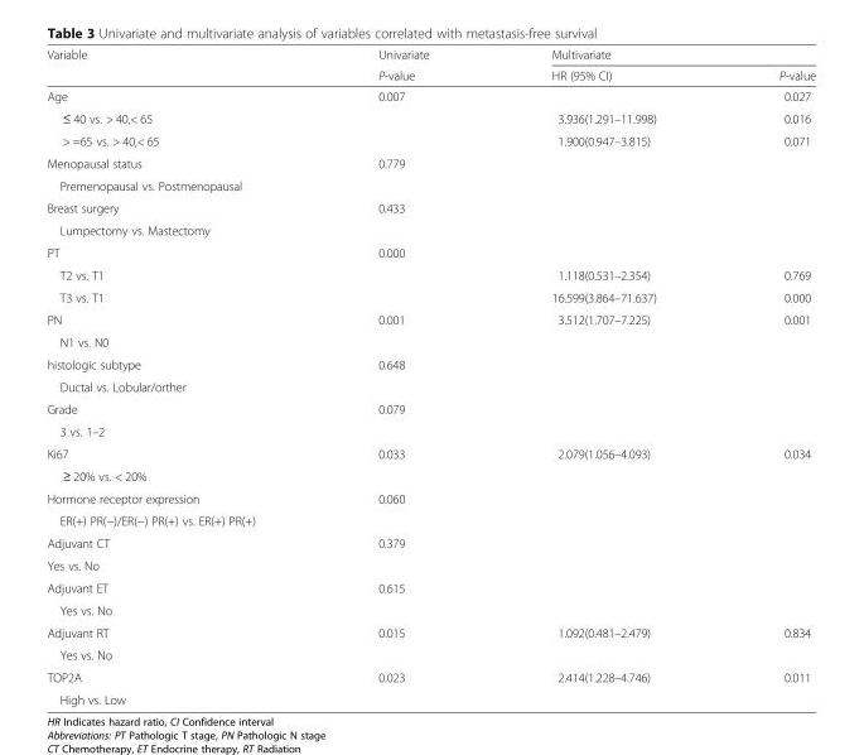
<table><thead><tr><td rowspan="2">Variable</td><td rowspan="2">Univariate P-value</td><td colspan="2">Multivariate</td></tr><tr><td>HR (95% CI)</td><td>P-value</td></tr></thead><tbody><tr><td>Age</td><td>0.007</td><td></td><td>0.027</td></tr><tr><td>≤ 40 vs. &gt; 40,&lt; 65</td><td></td><td>3.936(1.291–11.998)</td><td>0.016</td></tr><tr><td>&gt; =65 vs. &gt; 40,&lt; 65</td><td></td><td>1.900(0.947–3.815)</td><td>0.071</td></tr><tr><td>Menopausal status</td><td>0.779</td><td></td><td></td></tr><tr><td colspan="4">Premenopausal vs. Postmenopausal</td></tr><tr><td>Breast surgery</td><td>0.433</td><td></td><td></td></tr><tr><td colspan="4">Lumpectomy vs. Mastectomy</td></tr><tr><td>PT</td><td>0.000</td><td></td><td></td></tr><tr><td>T2 vs. T1</td><td></td><td>1.118(0.531–2.354)</td><td>0.769</td></tr><tr><td>T3 vs. T1</td><td></td><td>16.599(3.864–71.637)</td><td>0.000</td></tr><tr><td>PN</td><td>0.001</td><td>3.512(1.707–7.225)</td><td>0.001</td></tr><tr><td colspan="4">N1 vs. N0</td></tr><tr><td>histologic subtype</td><td>0.648</td><td></td><td></td></tr><tr><td colspan="4">Ductal vs. Lobular/orther</td></tr><tr><td>Grade</td><td>0.079</td><td></td><td></td></tr><tr><td colspan="4">3 vs. 1–2</td></tr><tr><td>Ki67</td><td>0.033</td><td>2.079(1.056–4.093)</td><td>0.034</td></tr><tr><td colspan="4">≥ 20% vs. &lt; 20%</td></tr><tr><td>Hormone receptor expression</td><td>0.060</td><td></td><td></td></tr><tr><td colspan="4">ER(+) PR(−)/ER(−) PR(+) vs. ER(+) PR(+)</td></tr><tr><td>Adjuvant CT</td><td>0.379</td><td></td><td></td></tr><tr><td colspan="4">Yes vs. No</td></tr><tr><td>Adjuvant ET</td><td>0.615</td><td></td><td></td></tr><tr><td colspan="4">Yes vs. No</td></tr><tr><td>Adjuvant RT</td><td>0.015</td><td>1.092(0.481–2.479)</td><td>0.834</td></tr><tr><td colspan="4">Yes vs. No</td></tr><tr><td>TOP2A</td><td>0.023</td><td>2.414(1.228–4.746)</td><td>0.011</td></tr><tr><td colspan="4">High vs. Low</td></tr></tbody></table>